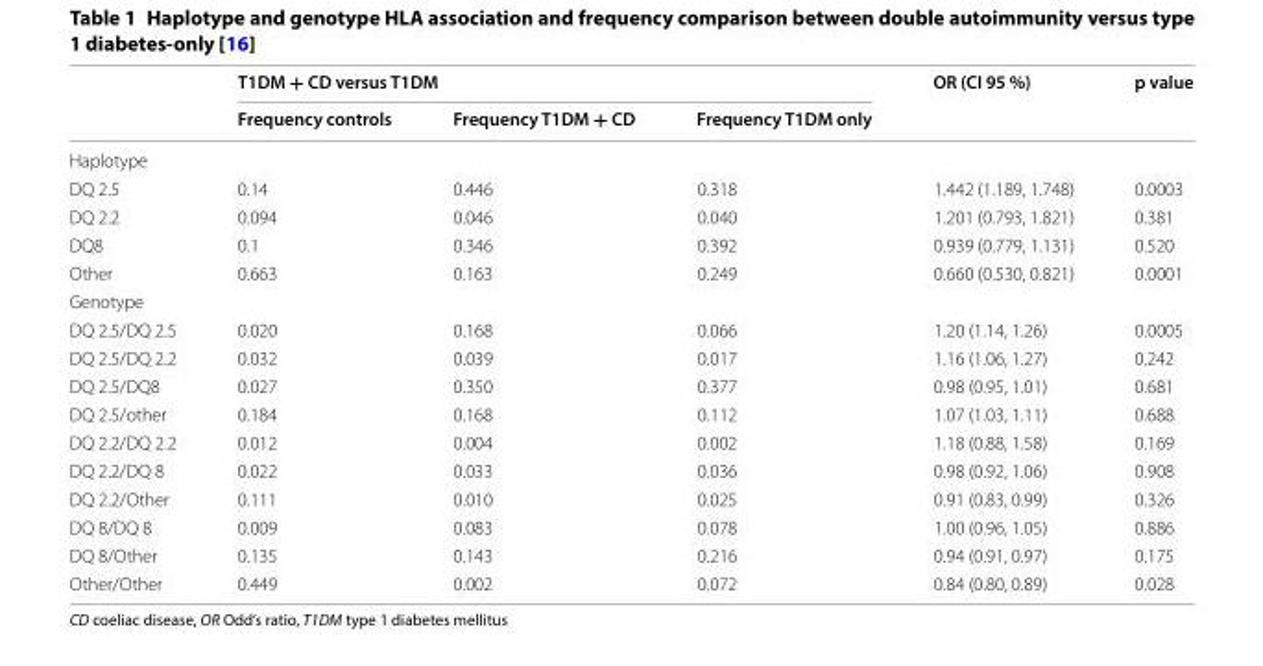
<table><thead><tr><td rowspan="2"></td><td colspan="3">T1DM + CD versus T1DM</td><td rowspan="2">OR (CI 95 %)</td><td rowspan="2">p value</td></tr><tr><td>Frequency controls</td><td>Frequency T1DM + CD</td><td>Frequency T1DM only</td></tr></thead><tbody><tr><td colspan="6">Haplotype</td></tr><tr><td>DQ 2.5</td><td>0.14</td><td>0.446</td><td>0.318</td><td>1.442 (1.189, 1.748)</td><td>0.0003</td></tr><tr><td>DQ 2.2</td><td>0.094</td><td>0.046</td><td>0.040</td><td>1.201 (0.793, 1.821)</td><td>0.381</td></tr><tr><td>DQ8</td><td>0.1</td><td>0.346</td><td>0.392</td><td>0.939 (0.779, 1.131)</td><td>0.520</td></tr><tr><td>Other</td><td>0.663</td><td>0.163</td><td>0.249</td><td>0.660 (0.530, 0.821)</td><td>0.0001</td></tr><tr><td colspan="6">Genotype</td></tr><tr><td>DQ 2.5/DQ 2.5</td><td>0.020</td><td>0.168</td><td>0.066</td><td>1.20 (1.14, 1.26)</td><td>0.0005</td></tr><tr><td>DQ 2.5/DQ 2.2</td><td>0.032</td><td>0.039</td><td>0.017</td><td>1.16 (1.06, 1.27)</td><td>0.242</td></tr><tr><td>DQ 2.5/DQ8</td><td>0.027</td><td>0.350</td><td>0.377</td><td>0.98 (0.95, 1.01)</td><td>0.681</td></tr><tr><td>DQ 2.5/other</td><td>0.184</td><td>0.168</td><td>0.112</td><td>1.07 (1.03, 1.11)</td><td>0.688</td></tr><tr><td>DQ 2.2/DQ 2.2</td><td>0.012</td><td>0.004</td><td>0.002</td><td>1.18 (0.88, 1.58)</td><td>0.169</td></tr><tr><td>DQ 2.2/DQ 8</td><td>0.022</td><td>0.033</td><td>0.036</td><td>0.98 (0.92, 1.06)</td><td>0.908</td></tr><tr><td>DQ 2.2/Other</td><td>0.111</td><td>0.010</td><td>0.025</td><td>0.91 (0.83, 0.99)</td><td>0.326</td></tr><tr><td>DQ 8/DQ 8</td><td>0.009</td><td>0.083</td><td>0.078</td><td>1.00 (0.96, 1.05)</td><td>0.886</td></tr><tr><td>DQ 8/Other</td><td>0.135</td><td>0.143</td><td>0.216</td><td>0.94 (0.91, 0.97)</td><td>0.175</td></tr><tr><td>Other/Other</td><td>0.449</td><td>0.002</td><td>0.072</td><td>0.84 (0.80, 0.89)</td><td>0.028</td></tr></tbody></table>